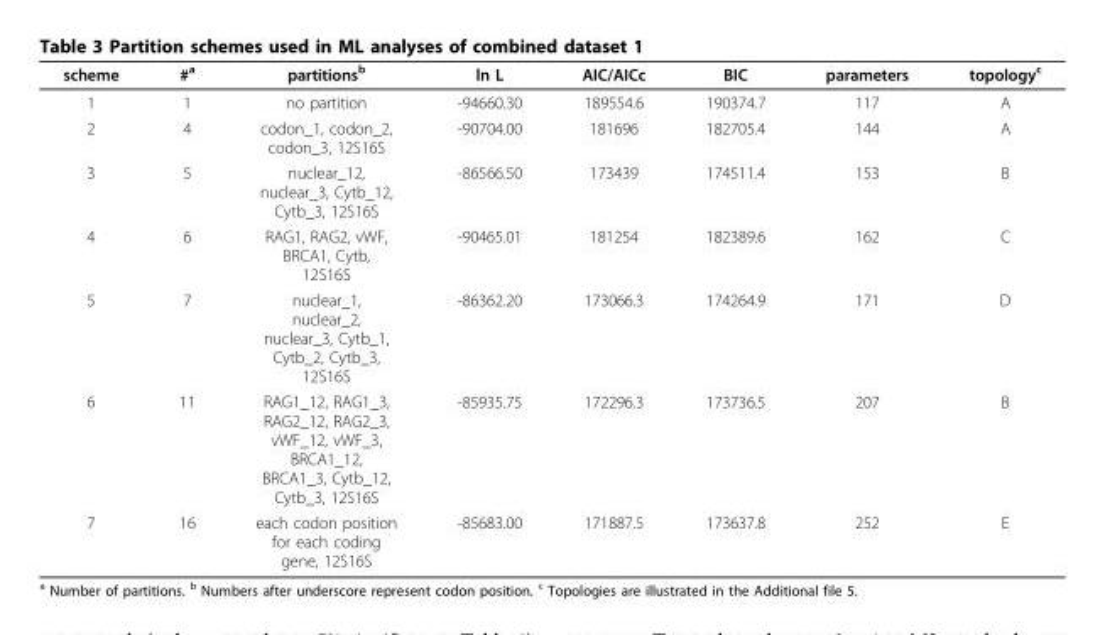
<table><thead><tr><td>scheme</td><td>#<sup>a</sup></td><td>partitions<sup>b</sup></td><td>ln L</td><td>AIC/AICc</td><td>BIC</td><td>parameters</td><td>topology<sup>c</sup></td></tr></thead><tbody><tr><td>1</td><td>1</td><td>no partition</td><td>-94660.30</td><td>189554.6</td><td>190374.7</td><td>117</td><td>A</td></tr><tr><td>2</td><td>4</td><td>codon_1, codon_2, codon_3, 12S16S</td><td>-90704.00</td><td>181696</td><td>182705.4</td><td>144</td><td>A</td></tr><tr><td>3</td><td>5</td><td>nuclear_12, nuclear_3, Cytb_12, Cytb_3, 12S16S</td><td>-86566.50</td><td>173439</td><td>174511.4</td><td>153</td><td>B</td></tr><tr><td>4</td><td>6</td><td>RAG1, RAG2, vWF, BRCA1, Cytb, 12S16S</td><td>-90465.01</td><td>181254</td><td>182389.6</td><td>162</td><td>C</td></tr><tr><td>5</td><td>7</td><td>nuclear_1, nuclear_2, nuclear_3, Cytb_1, Cytb_2, Cytb_3, 12S16S</td><td>-86362.20</td><td>173066.3</td><td>174264.9</td><td>171</td><td>D</td></tr><tr><td>6</td><td>11</td><td>RAG1_12, RAG1_3, RAG2_12, RAG2_3, vWF_12, vWF_3, BRCA1_12, BRCA1_3, Cytb_12, Cytb_3, 12S16S</td><td>-85935.75</td><td>172296.3</td><td>173736.5</td><td>207</td><td>B</td></tr><tr><td>7</td><td>16</td><td>each codon position for each coding gene, 12S16S</td><td>-85683.00</td><td>171887.5</td><td>173637.8</td><td>252</td><td>E</td></tr></tbody></table>